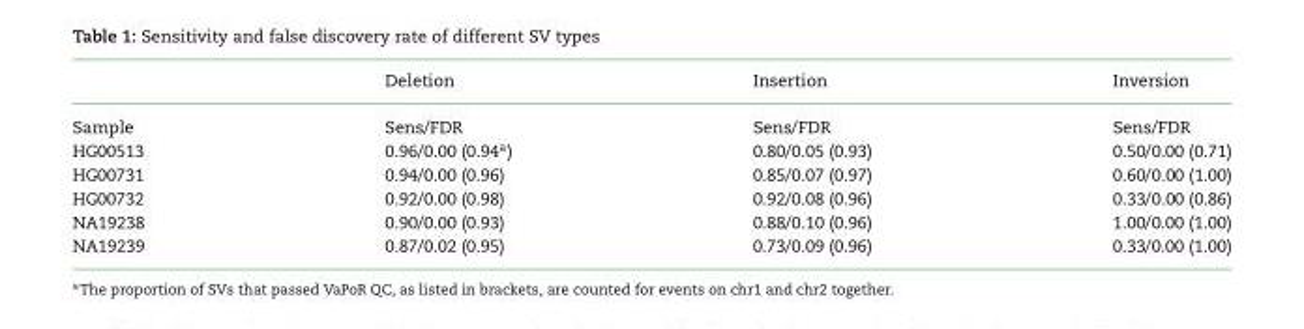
<table><thead><tr><td></td><td>Deletion</td><td>Insertion</td><td>Inversion</td></tr></thead><tbody><tr><td>Sample</td><td>Sens/FDR</td><td>Sens/FDR</td><td>Sens/FDR</td></tr><tr><td>HG00513</td><td>0.96/0.00 (0.94<sup>a</sup>)</td><td>0.80/0.05 (0.93)</td><td>0.50/0.00 (0.71)</td></tr><tr><td>HG00731</td><td>0.94/0.00 (0.96)</td><td>0.85/0.07 (0.97)</td><td>0.60/0.00 (1.00)</td></tr><tr><td>HG00732</td><td>0.92/0.00 (0.98)</td><td>0.92/0.08 (0.96)</td><td>0.33/0.00 (0.86)</td></tr><tr><td>NA19238</td><td>0.90/0.00 (0.93)</td><td>0.88/0.10 (0.96)</td><td>1.00/0.00 (1.00)</td></tr><tr><td>NA19239</td><td>0.87/0.02 (0.95)</td><td>0.73/0.09 (0.96)</td><td>0.33/0.00 (1.00)</td></tr></tbody></table>